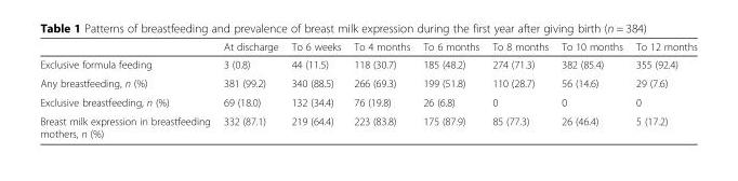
<table><thead><tr><td></td><td>At discharge</td><td>To 6 weeks</td><td>To 4 months</td><td>To 6 months</td><td>To 8 months</td><td>To 10 months</td><td>To 12 months</td></tr></thead><tbody><tr><td>Exclusive formula feeding</td><td>3 (0.8)</td><td>44 (11.5)</td><td>118 (30.7)</td><td>185 (48.2)</td><td>274 (71.3)</td><td>382 (85.4)</td><td>355 (92.4)</td></tr><tr><td>Any breastfeeding, n (%)</td><td>381 (99.2)</td><td>340 (88.5)</td><td>266 (69.3)</td><td>199 (51.8)</td><td>110 (28.7)</td><td>56 (14.6)</td><td>29 (7.6)</td></tr><tr><td>Exclusive breastfeeding, n (%)</td><td>69 (18.0)</td><td>132 (34.4)</td><td>76 (19.8)</td><td>26 (6.8)</td><td>0</td><td>0</td><td>0</td></tr><tr><td>Breast milk expression in breastfeeding mothers, n (%)</td><td>332 (87.1)</td><td>219 (64.4)</td><td>223 (83.8)</td><td>175 (87.9)</td><td>85 (77.3)</td><td>26 (46.4)</td><td>5 (17.2)</td></tr></tbody></table>